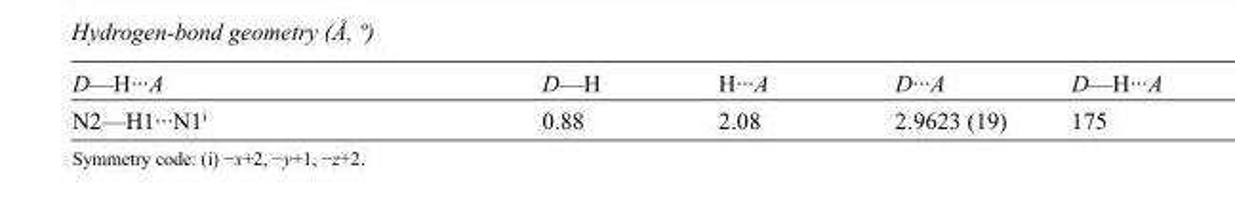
<table><tbody><tr><td>D—H···A</td><td>D—H</td><td>H···A</td><td>D···A</td><td>D—H···A</td></tr><tr><td>N2—H1···N1<sup>i</sup></td><td>0.88</td><td>2.08</td><td>2.9623 (19)</td><td>175</td></tr></tbody></table>